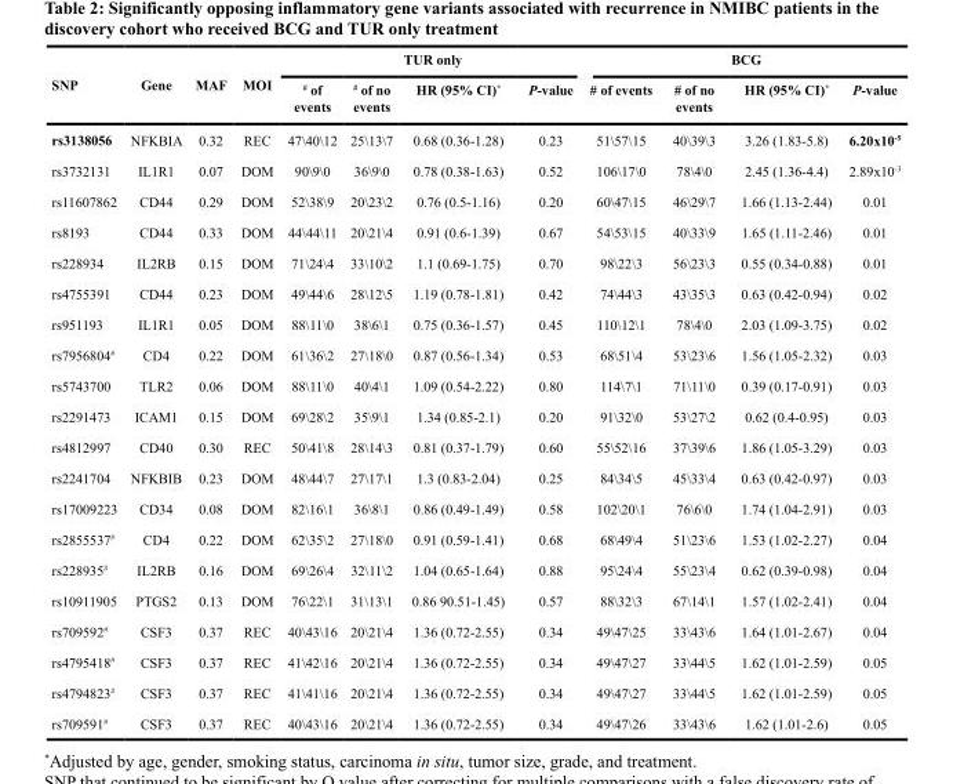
<table><thead><tr><td rowspan="2">SNP</td><td rowspan="2">Gene</td><td rowspan="2">MAF</td><td rowspan="2">MOI</td><td colspan="4">TUR only</td><td colspan="4">BCG</td></tr><tr><td><sup>#</sup> of events</td><td><sup>#</sup> of no events</td><td>HR (95% CI)*</td><td>P-value</td><td># of events</td><td># of no events</td><td>HR (95% CI)*</td><td>P-value</td></tr></thead><tbody><tr><td>rs3138056</td><td>NFKBIA</td><td>0.32</td><td>REC</td><td>47\40\12</td><td>25\13\7</td><td>0.68 (0.36-1.28)</td><td>0.23</td><td>51\57\15</td><td>40\39\3</td><td>3.26 (1.83-5.8)</td><td>6.20x10<sup>-5</sup></td></tr><tr><td>rs3732131</td><td>IL1R1</td><td>0.07</td><td>DOM</td><td>90\9\0</td><td>36\9\0</td><td>0.78 (0.38-1.63)</td><td>0.52</td><td>106\17\0</td><td>78\4\0</td><td>2.45 (1.36-4.4)</td><td>2.89x10<sup>-3</sup></td></tr><tr><td>rs11607862</td><td>CD44</td><td>0.29</td><td>DOM</td><td>52\38\9</td><td>20\23\2</td><td>0.76 (0.5-1.16)</td><td>0.20</td><td>60\47\15</td><td>46\29\7</td><td>1.66 (1.13-2.44)</td><td>0.01</td></tr><tr><td>rs8193</td><td>CD44</td><td>0.33</td><td>DOM</td><td>44\44\11</td><td>20\21\4</td><td>0.91 (0.6-1.39)</td><td>0.67</td><td>54\53\15</td><td>40\33\9</td><td>1.65 (1.11-2.46)</td><td>0.01</td></tr><tr><td>rs228934</td><td>IL2RB</td><td>0.15</td><td>DOM</td><td>71\24\4</td><td>33\10\2</td><td>1.1 (0.69-1.75)</td><td>0.70</td><td>98\22\3</td><td>56\23\3</td><td>0.55 (0.34-0.88)</td><td>0.01</td></tr><tr><td>rs4755391</td><td>CD44</td><td>0.23</td><td>DOM</td><td>49\44\6</td><td>28\12\5</td><td>1.19 (0.78-1.81)</td><td>0.42</td><td>74\44\3</td><td>43\35\3</td><td>0.63 (0.42-0.94)</td><td>0.02</td></tr><tr><td>rs951193</td><td>IL1R1</td><td>0.05</td><td>DOM</td><td>88\11\0</td><td>38\6\1</td><td>0.75 (0.36-1.57)</td><td>0.45</td><td>110\12\1</td><td>78\4\0</td><td>2.03 (1.09-3.75)</td><td>0.02</td></tr><tr><td>rs7956804<sup>#</sup></td><td>CD4</td><td>0.22</td><td>DOM</td><td>61\36\2</td><td>27\18\0</td><td>0.87 (0.56-1.34)</td><td>0.53</td><td>68\51\4</td><td>53\23\6</td><td>1.56 (1.05-2.32)</td><td>0.03</td></tr><tr><td>rs5743700</td><td>TLR2</td><td>0.06</td><td>DOM</td><td>88\11\0</td><td>40\4\1</td><td>1.09 (0.54-2.22)</td><td>0.80</td><td>114\7\1</td><td>71\11\0</td><td>0.39 (0.17-0.91)</td><td>0.03</td></tr><tr><td>rs2291473</td><td>ICAM1</td><td>0.15</td><td>DOM</td><td>69\28\2</td><td>35\9\1</td><td>1.34 (0.85-2.1)</td><td>0.20</td><td>91\32\0</td><td>53\27\2</td><td>0.62 (0.4-0.95)</td><td>0.03</td></tr><tr><td>rs4812997</td><td>CD40</td><td>0.30</td><td>REC</td><td>50\41\8</td><td>28\14\3</td><td>0.81 (0.37-1.79)</td><td>0.60</td><td>55\52\16</td><td>37\39\6</td><td>1.86 (1.05-3.29)</td><td>0.03</td></tr><tr><td>rs2241704</td><td>NFKBIB</td><td>0.23</td><td>DOM</td><td>48\44\7</td><td>27\17\1</td><td>1.3 (0.83-2.04)</td><td>0.25</td><td>84\34\5</td><td>45\33\4</td><td>0.63 (0.42-0.97)</td><td>0.03</td></tr><tr><td>rs17009223</td><td>CD34</td><td>0.08</td><td>DOM</td><td>82\16\1</td><td>36\8\1</td><td>0.86 (0.49-1.49)</td><td>0.58</td><td>102\20\1</td><td>76\6\0</td><td>1.74 (1.04-2.91)</td><td>0.03</td></tr><tr><td>rs2855537<sup>#</sup></td><td>CD4</td><td>0.22</td><td>DOM</td><td>62\35\2</td><td>27\18\0</td><td>0.91 (0.59-1.41)</td><td>0.68</td><td>68\49\4</td><td>51\23\6</td><td>1.53 (1.02-2.27)</td><td>0.04</td></tr><tr><td>rs228935<sup>#</sup></td><td>IL2RB</td><td>0.16</td><td>DOM</td><td>69\26\4</td><td>32\11\2</td><td>1.04 (0.65-1.64)</td><td>0.88</td><td>95\24\4</td><td>55\23\4</td><td>0.62 (0.39-0.98)</td><td>0.04</td></tr><tr><td>rs10911905</td><td>PTGS2</td><td>0.13</td><td>DOM</td><td>76\22\1</td><td>31\13\1</td><td>0.86 90.51-1.45)</td><td>0.57</td><td>88\32\3</td><td>67\14\1</td><td>1.57 (1.02-2.41)</td><td>0.04</td></tr><tr><td>rs709592<sup>#</sup></td><td>CSF3</td><td>0.37</td><td>REC</td><td>40\43\16</td><td>20\21\4</td><td>1.36 (0.72-2.55)</td><td>0.34</td><td>49\47\25</td><td>33\43\6</td><td>1.64 (1.01-2.67)</td><td>0.04</td></tr><tr><td>rs4795418<sup>#</sup></td><td>CSF3</td><td>0.37</td><td>REC</td><td>41\42\16</td><td>20\21\4</td><td>1.36 (0.72-2.55)</td><td>0.34</td><td>49\47\27</td><td>33\44\5</td><td>1.62 (1.01-2.59)</td><td>0.05</td></tr><tr><td>rs4794823<sup>#</sup></td><td>CSF3</td><td>0.37</td><td>REC</td><td>41\41\16</td><td>20\21\4</td><td>1.36 (0.72-2.55)</td><td>0.34</td><td>49\47\27</td><td>33\44\5</td><td>1.62 (1.01-2.59)</td><td>0.05</td></tr><tr><td>rs709591<sup>#</sup></td><td>CSF3</td><td>0.37</td><td>REC</td><td>40\43\16</td><td>20\21\4</td><td>1.36 (0.72-2.55)</td><td>0.34</td><td>49\47\26</td><td>33\43\6</td><td>1.62 (1.01-2.6)</td><td>0.05</td></tr></tbody></table>